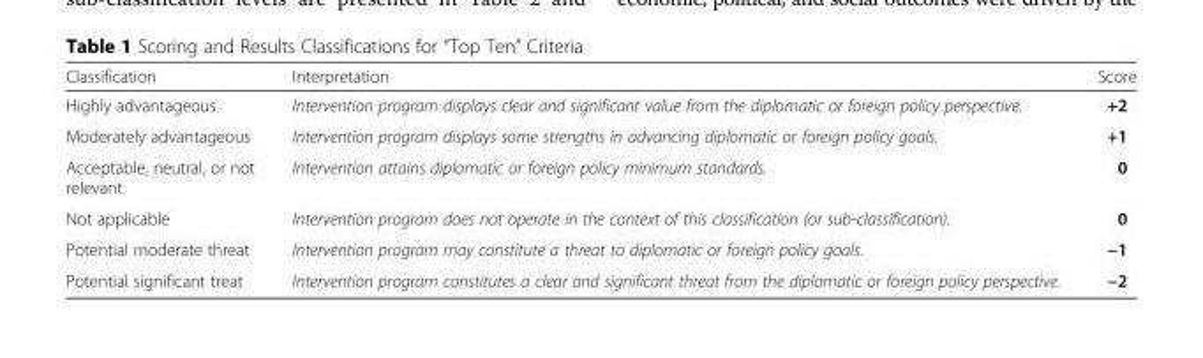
<table><thead><tr><td>Classification</td><td>Interpretation</td><td>Score</td></tr></thead><tbody><tr><td>Highly advantageous</td><td>Intervention program displays clear and significant value from the diplomatic or foreign policy perspective.</td><td>+2</td></tr><tr><td>Moderately advantageous</td><td>Intervention program displays some strengths in advancing diplomatic or foreign policy goals.</td><td>+1</td></tr><tr><td>Acceptable, neutral, or not relevant</td><td>Intervention attains diplomatic or foreign policy minimum standards.</td><td>0</td></tr><tr><td>Not applicable</td><td>Intervention program does not operate in the context of this classification (or sub-classification).</td><td>0</td></tr><tr><td>Potential moderate threat</td><td>Intervention program may constitute a threat to diplomatic or foreign policy goals.</td><td>−1</td></tr><tr><td>Potential significant treat</td><td>Intervention program constitutes a clear and significant threat from the diplomatic or foreign policy perspective.</td><td>−2</td></tr></tbody></table>